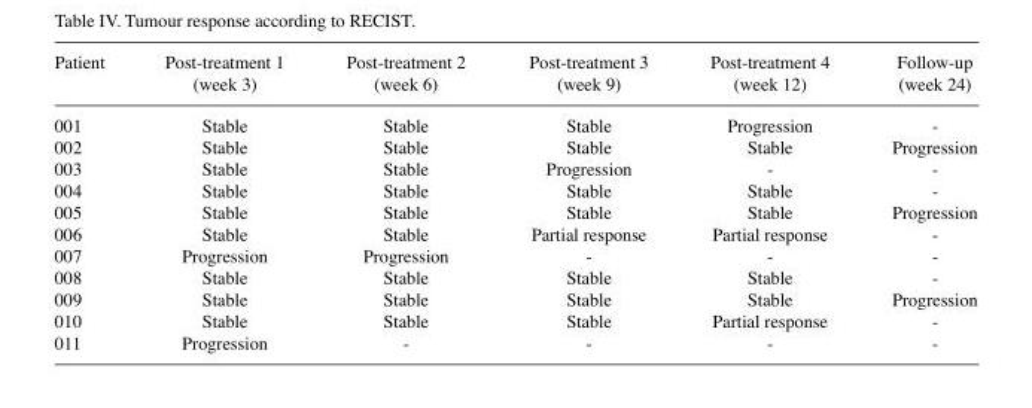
<table><thead><tr><td>Patient</td><td>Post-treatment 1 (week 3)</td><td>Post-treatment 2 (week 6)</td><td>Post-treatment 3 (week 9)</td><td>Post-treatment 4 (week 12)</td><td>Follow-up (week 24)</td></tr></thead><tbody><tr><td>001</td><td>Stable</td><td>Stable</td><td>Stable</td><td>Progression</td><td>-</td></tr><tr><td>002</td><td>Stable</td><td>Stable</td><td>Stable</td><td>Stable</td><td>Progression</td></tr><tr><td>003</td><td>Stable</td><td>Stable</td><td>Progression</td><td>-</td><td>-</td></tr><tr><td>004</td><td>Stable</td><td>Stable</td><td>Stable</td><td>Stable</td><td>-</td></tr><tr><td>005</td><td>Stable</td><td>Stable</td><td>Stable</td><td>Stable</td><td>Progression</td></tr><tr><td>006</td><td>Stable</td><td>Stable</td><td>Partial response</td><td>Partial response</td><td>-</td></tr><tr><td>007</td><td>Progression</td><td>Progression</td><td>-</td><td>-</td><td>-</td></tr><tr><td>008</td><td>Stable</td><td>Stable</td><td>Stable</td><td>Stable</td><td>-</td></tr><tr><td>009</td><td>Stable</td><td>Stable</td><td>Stable</td><td>Stable</td><td>Progression</td></tr><tr><td>010</td><td>Stable</td><td>Stable</td><td>Stable</td><td>Partial response</td><td>-</td></tr><tr><td>011</td><td>Progression</td><td>-</td><td>-</td><td>-</td><td>-</td></tr></tbody></table>